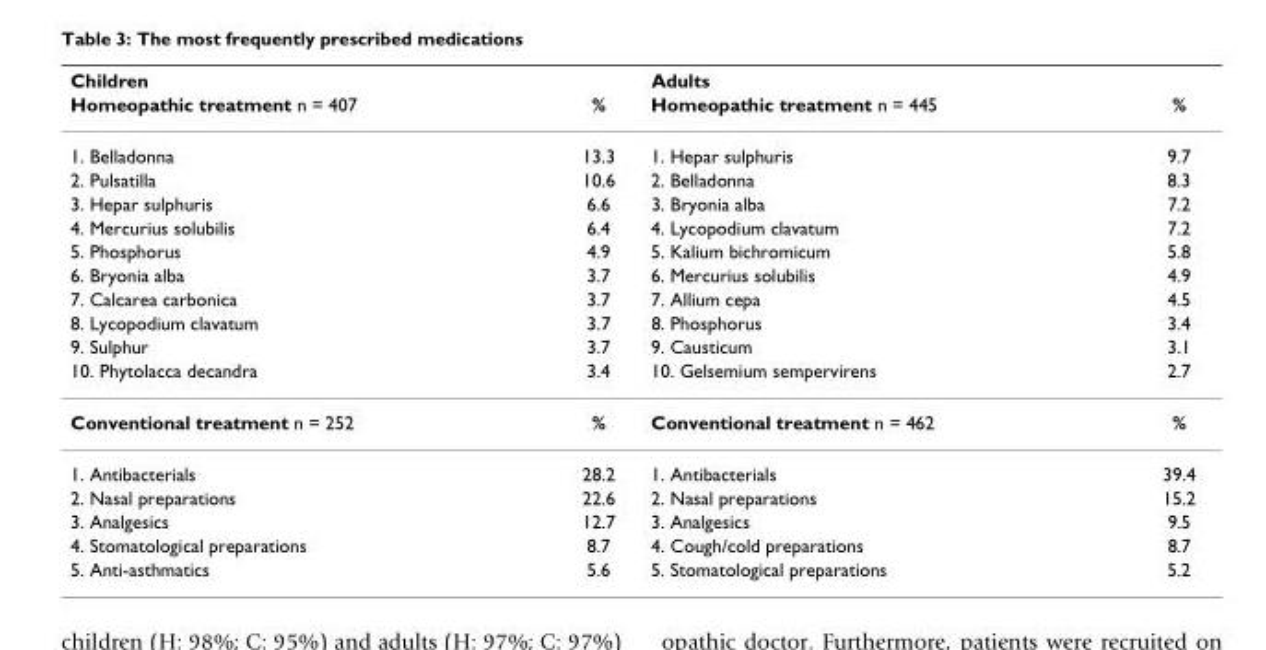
<table><thead><tr><td rowspan="2">Children Homeopathic treatment n = 407</td><td rowspan="2">%</td><td rowspan="2">Adults Homeopathic treatment n = 445</td><td rowspan="2">%</td></tr><tr></tr></thead><tbody><tr><td>1. Belladonna</td><td>13.3</td><td>1. Hepar sulphuris</td><td>9.7</td></tr><tr><td>2. Pulsatilla</td><td>10.6</td><td>2. Belladonna</td><td>8.3</td></tr><tr><td>3. Hepar sulphuris</td><td>6.6</td><td>3. Bryonia alba</td><td>7.2</td></tr><tr><td>4. Mercurius solubilis</td><td>6.4</td><td>4. Lycopodium clavatum</td><td>7.2</td></tr><tr><td>5. Phosphorus</td><td>4.9</td><td>5. Kalium bichromicum</td><td>5.8</td></tr><tr><td>6. Bryonia alba</td><td>3.7</td><td>6. Mercurius solubilis</td><td>4.9</td></tr><tr><td>7. Calcarea carbonica</td><td>3.7</td><td>7. Allium cepa</td><td>4.5</td></tr><tr><td>8. Lycopodium clavatum</td><td>3.7</td><td>8. Phosphorus</td><td>3.4</td></tr><tr><td>9. Sulphur</td><td>3.7</td><td>9. Causticum</td><td>3.1</td></tr><tr><td>10. Phytolacca decandra</td><td>3.4</td><td>10. Gelsemium sempervirens</td><td>2.7</td></tr><tr><td>Conventional treatment n = 252</td><td>%</td><td>Conventional treatment n = 462</td><td>%</td></tr><tr><td>1. Antibacterials</td><td>28.2</td><td>1. Antibacterials</td><td>39.4</td></tr><tr><td>2. Nasal preparations</td><td>22.6</td><td>2. Nasal preparations</td><td>15.2</td></tr><tr><td>3. Analgesics</td><td>12.7</td><td>3. Analgesics</td><td>9.5</td></tr><tr><td>4. Stomatological preparations</td><td>8.7</td><td>4. Cough/cold preparations</td><td>8.7</td></tr><tr><td>5. Anti-asthmatics</td><td>5.6</td><td>5. Stomatological preparations</td><td>5.2</td></tr></tbody></table>